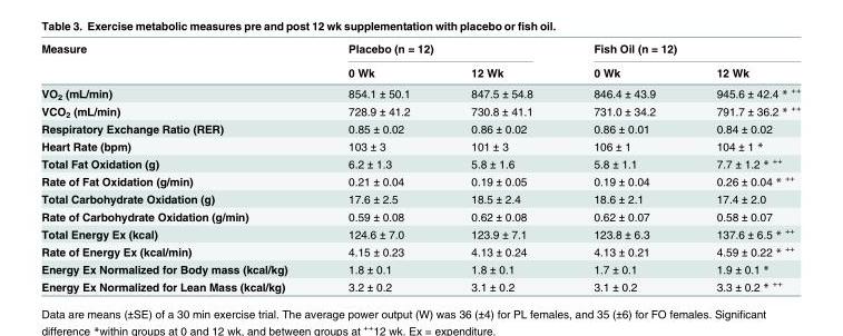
<table><thead><tr><td rowspan="2">Measure</td><td colspan="2">Placebo (n = 12)</td><td colspan="2">Fish Oil (n = 12)</td></tr><tr><td>0 Wk</td><td>12 Wk</td><td>0 Wk</td><td>12 Wk</td></tr></thead><tbody><tr><td>VO<sub>2</sub> (mL/min)</td><td>854.1 ± 50.1</td><td>847.5 ± 54.8</td><td>846.4 ± 43.9</td><td>945.6 ± 42.4 * <sup>++</sup></td></tr><tr><td>VCO<sub>2</sub> (mL/min)</td><td>728.9 ± 41.2</td><td>730.8 ± 41.1</td><td>731.0 ± 34.2</td><td>791.7 ± 36.2 * <sup>++</sup></td></tr><tr><td>Respiratory Exchange Ratio (RER)</td><td>0.85 ± 0.02</td><td>0.86 ± 0.02</td><td>0.86 ± 0.01</td><td>0.84 ± 0.02</td></tr><tr><td>Heart Rate (bpm)</td><td>103 ± 3</td><td>101 ± 3</td><td>106 ± 1</td><td>104 ± 1 *</td></tr><tr><td>Total Fat Oxidation (g)</td><td>6.2 ± 1.3</td><td>5.8 ± 1.6</td><td>5.8 ± 1.1</td><td>7.7 ± 1.2 * <sup>++</sup></td></tr><tr><td>Rate of Fat Oxidation (g/min)</td><td>0.21 ± 0.04</td><td>0.19 ± 0.05</td><td>0.19 ± 0.04</td><td>0.26 ± 0.04 * <sup>++</sup></td></tr><tr><td>Total Carbohydrate Oxidation (g)</td><td>17.6 ± 2.5</td><td>18.5 ± 2.4</td><td>18.6 ± 2.1</td><td>17.4 ± 2.0</td></tr><tr><td>Rate of Carbohydrate Oxidation (g/min)</td><td>0.59 ± 0.08</td><td>0.62 ± 0.08</td><td>0.62 ± 0.07</td><td>0.58 ± 0.07</td></tr><tr><td>Total Energy Ex (kcal)</td><td>124.6 ± 7.0</td><td>123.9 ± 7.1</td><td>123.8 ± 6.3</td><td>137.6 ± 6.5 * <sup>++</sup></td></tr><tr><td>Rate of Energy Ex (kcal/min)</td><td>4.15 ± 0.23</td><td>4.13 ± 0.24</td><td>4.13 ± 0.21</td><td>4.59 ± 0.22 * <sup>++</sup></td></tr><tr><td>Energy Ex Normalized for Body mass (kcal/kg)</td><td>1.8 ± 0.1</td><td>1.8 ± 0.1</td><td>1.7 ± 0.1</td><td>1.9 ± 0.1 *</td></tr><tr><td>Energy Ex Normalized for Lean Mass (kcal/kg)</td><td>3.2 ± 0.2</td><td>3.1 ± 0.2</td><td>3.1 ± 0.2</td><td>3.3 ± 0.2 * <sup>++</sup></td></tr></tbody></table>